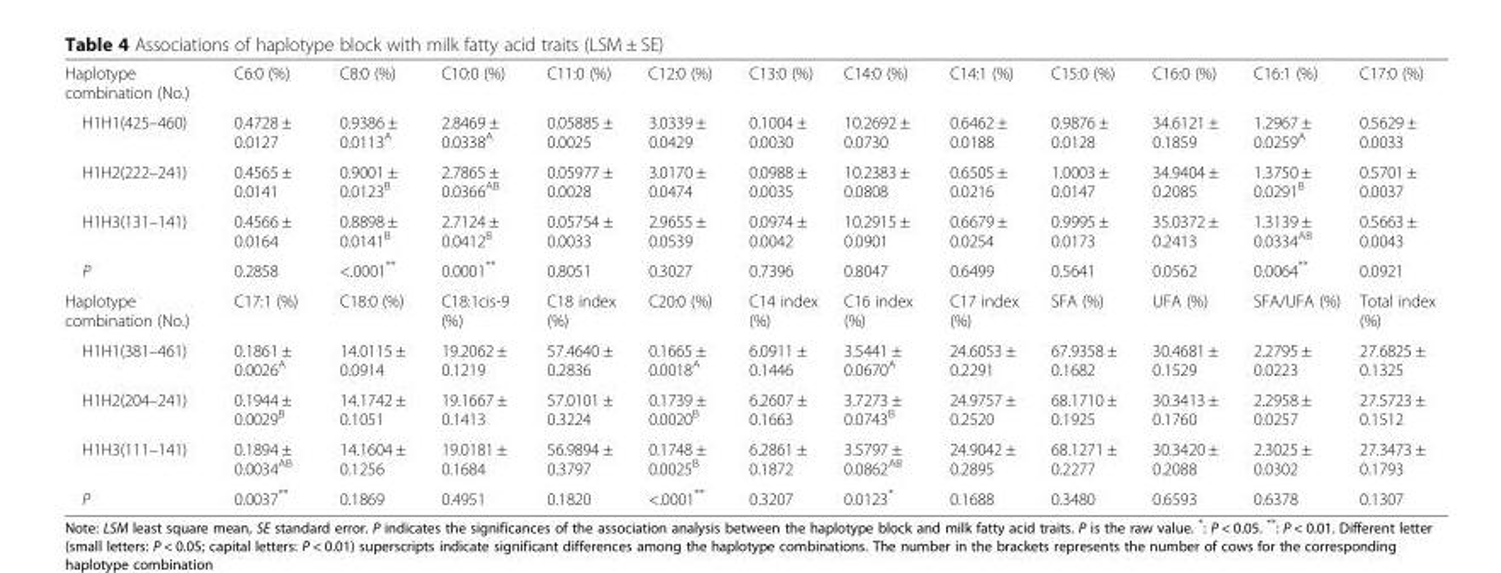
<table><tbody><tr><td>Haplotype combination (No.)</td><td>C6:0 (%)</td><td>C8:0 (%)</td><td>C10:0 (%)</td><td>C11:0 (%)</td><td>C12:0 (%)</td><td>C13:0 (%)</td><td>C14:0 (%)</td><td>C14:1 (%)</td><td>C15:0 (%)</td><td>C16:0 (%)</td><td>C16:1 (%)</td><td>C17:0 (%)</td></tr><tr><td>H1H1(425–460)</td><td>0.4728 ± 0.0127</td><td>0.9386 ± 0.0113<sup>A</sup></td><td>2.8469 ± 0.0338<sup>A</sup></td><td>0.05885 ± 0.0025</td><td>3.0339 ± 0.0429</td><td>0.1004 ± 0.0030</td><td>10.2692 ± 0.0730</td><td>0.6462 ± 0.0188</td><td>0.9876 ± 0.0128</td><td>34.6121 ± 0.1859</td><td>1.2967 ± 0.0259<sup>A</sup></td><td>0.5629 ± 0.0033</td></tr><tr><td>H1H2(222–241)</td><td>0.4565 ± 0.0141</td><td>0.9001 ± 0.0123<sup>B</sup></td><td>2.7865 ± 0.0366<sup>AB</sup></td><td>0.05977 ± 0.0028</td><td>3.0170 ± 0.0474</td><td>0.0988 ± 0.0035</td><td>10.2383 ± 0.0808</td><td>0.6505 ± 0.0216</td><td>1.0003 ± 0.0147</td><td>34.9404 ± 0.2085</td><td>1.3750 ± 0.0291<sup>B</sup></td><td>0.5701 ± 0.0037</td></tr><tr><td>H1H3(131–141)</td><td>0.4566 ± 0.0164</td><td>0.8898 ± 0.0141<sup>B</sup></td><td>2.7124 ± 0.0412<sup>B</sup></td><td>0.05754 ± 0.0033</td><td>2.9655 ± 0.0539</td><td>0.0974 ± 0.0042</td><td>10.2915 ± 0.0901</td><td>0.6679 ± 0.0254</td><td>0.9995 ± 0.0173</td><td>35.0372 ± 0.2413</td><td>1.3139 ± 0.0334<sup>AB</sup></td><td>0.5663 ± 0.0043</td></tr><tr><td>P</td><td>0.2858</td><td>&lt;.0001**</td><td>0.0001**</td><td>0.8051</td><td>0.3027</td><td>0.7396</td><td>0.8047</td><td>0.6499</td><td>0.5641</td><td>0.0562</td><td>0.0064**</td><td>0.0921</td></tr><tr><td>Haplotype combination (No.)</td><td>C17:1 (%)</td><td>C18:0 (%)</td><td>C18:1cis-9 (%)</td><td>C18 index (%)</td><td>C20:0 (%)</td><td>C14 index (%)</td><td>C16 index (%)</td><td>C17 index (%)</td><td>SFA (%)</td><td>UFA (%)</td><td>SFA/UFA (%)</td><td>Total index (%)</td></tr><tr><td>H1H1(381–461)</td><td>0.1861 ± 0.0026<sup>A</sup></td><td>14.0115 ± 0.0914</td><td>19.2062 ± 0.1219</td><td>57.4640 ± 0.2836</td><td>0.1665 ± 0.0018<sup>A</sup></td><td>6.0911 ± 0.1446</td><td>3.5441 ± 0.0670<sup>A</sup></td><td>24.6053 ± 0.2291</td><td>67.9358 ± 0.1682</td><td>30.4681 ± 0.1529</td><td>2.2795 ± 0.0223</td><td>27.6825 ± 0.1325</td></tr><tr><td>H1H2(204–241)</td><td>0.1944 ± 0.0029<sup>B</sup></td><td>14.1742 ± 0.1051</td><td>19.1667 ± 0.1413</td><td>57.0101 ± 0.3224</td><td>0.1739 ± 0.0020<sup>B</sup></td><td>6.2607 ± 0.1663</td><td>3.7273 ± 0.0743<sup>B</sup></td><td>24.9757 ± 0.2520</td><td>68.1710 ± 0.1925</td><td>30.3413 ± 0.1760</td><td>2.2958 ± 0.0257</td><td>27.5723 ± 0.1512</td></tr><tr><td>H1H3(111–141)</td><td>0.1894 ± 0.0034<sup>AB</sup></td><td>14.1604 ± 0.1256</td><td>19.0181 ± 0.1684</td><td>56.9894 ± 0.3797</td><td>0.1748 ± 0.0025<sup>B</sup></td><td>6.2861 ± 0.1872</td><td>3.5797 ± 0.0862<sup>AB</sup></td><td>24.9042 ± 0.2895</td><td>68.1271 ± 0.2277</td><td>30.3420 ± 0.2088</td><td>2.3025 ± 0.0302</td><td>27.3473 ± 0.1793</td></tr><tr><td>P</td><td>0.0037**</td><td>0.1869</td><td>0.4951</td><td>0.1820</td><td>&lt;.0001**</td><td>0.3207</td><td>0.0123*</td><td>0.1688</td><td>0.3480</td><td>0.6593</td><td>0.6378</td><td>0.1307</td></tr></tbody></table>